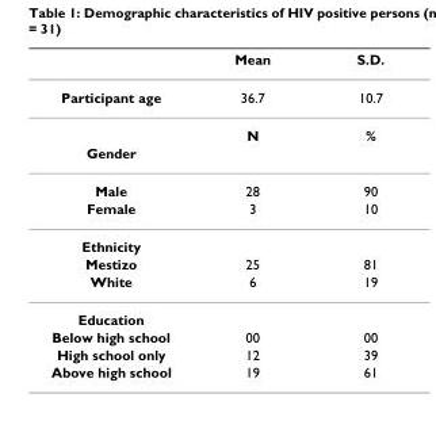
<table><thead><tr><td></td><td>Mean</td><td>S.D.</td></tr></thead><tbody><tr><td rowspan="2">Participant age</td><td>36.7</td><td>10.7</td></tr><tr><td>N</td><td>%</td></tr><tr><td colspan="3">Gender</td></tr><tr><td>Male</td><td>28</td><td>90</td></tr><tr><td>Female</td><td>3</td><td>10</td></tr><tr><td colspan="3">Ethnicity</td></tr><tr><td>Mestizo</td><td>25</td><td>81</td></tr><tr><td>White</td><td>6</td><td>19</td></tr><tr><td colspan="3">Education</td></tr><tr><td>Below high school</td><td>00</td><td>00</td></tr><tr><td>High school only</td><td>12</td><td>39</td></tr><tr><td>Above high school</td><td>19</td><td>61</td></tr></tbody></table>